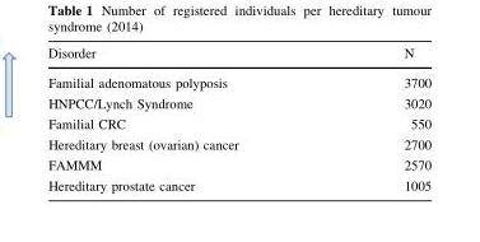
<table><thead><tr><td>Disorder</td><td>N</td></tr></thead><tbody><tr><td>Familial adenomatous polyposis</td><td>3700</td></tr><tr><td>HNPCC/Lynch Syndrome</td><td>3020</td></tr><tr><td>Familial CRC</td><td>550</td></tr><tr><td>Hereditary breast (ovarian) cancer</td><td>2700</td></tr><tr><td>FAMMM</td><td>2570</td></tr><tr><td>Hereditary prostate cancer</td><td>1005</td></tr></tbody></table>